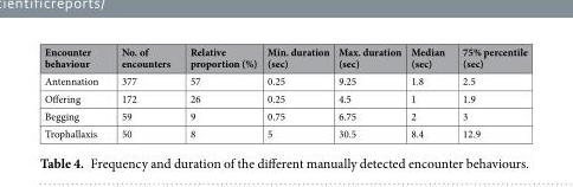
<table><thead><tr><td>Encounter behaviour</td><td>No. of encounters</td><td>Relative proportion (%)</td><td>Min. duration (sec)</td><td>Max. duration (sec)</td><td>Median (sec)</td><td>75% percentile (sec)</td></tr></thead><tbody><tr><td>Antennation</td><td>377</td><td>57</td><td>0.25</td><td>9.25</td><td>1.8</td><td>2.5</td></tr><tr><td>Offering</td><td>172</td><td>26</td><td>0.25</td><td>4.5</td><td>1</td><td>1.9</td></tr><tr><td>Begging</td><td>59</td><td>9</td><td>0.75</td><td>6.75</td><td>2</td><td>3</td></tr><tr><td>Trophallaxis</td><td>50</td><td>8</td><td>5</td><td>30.5</td><td>8.4</td><td>12.9</td></tr></tbody></table>